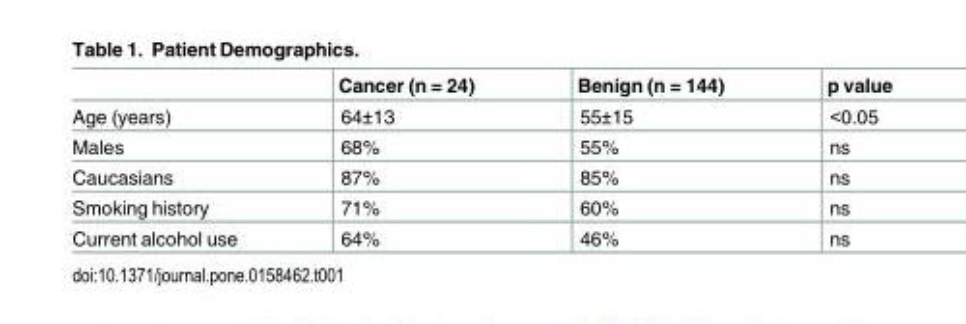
<table><thead><tr><td></td><td>Cancer (n = 24)</td><td>Benign (n = 144)</td><td>p value</td></tr></thead><tbody><tr><td>Age (years)</td><td>64±13</td><td>55±15</td><td>&lt;0.05</td></tr><tr><td>Males</td><td>68%</td><td>55%</td><td>ns</td></tr><tr><td>Caucasians</td><td>87%</td><td>85%</td><td>ns</td></tr><tr><td>Smoking history</td><td>71%</td><td>60%</td><td>ns</td></tr><tr><td>Current alcohol use</td><td>64%</td><td>46%</td><td>ns</td></tr></tbody></table>